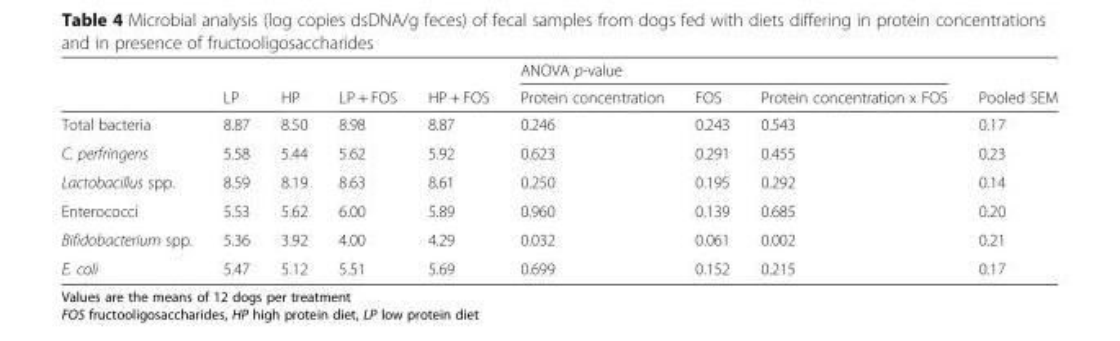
<table><thead><tr><td rowspan="2"></td><td rowspan="2">LP</td><td rowspan="2">HP</td><td rowspan="2">LP + FOS</td><td rowspan="2">HP + FOS</td><td colspan="3">ANOVA p-value</td><td rowspan="2">Pooled SEM</td></tr><tr><td>Protein concentration</td><td>FOS</td><td>Protein concentration x FOS</td></tr></thead><tbody><tr><td>Total bacteria</td><td>8.87</td><td>8.50</td><td>8.98</td><td>8.87</td><td>0.246</td><td>0.243</td><td>0.543</td><td>0.17</td></tr><tr><td>C. perfringens</td><td>5.58</td><td>5.44</td><td>5.62</td><td>5.92</td><td>0.623</td><td>0.291</td><td>0.455</td><td>0.23</td></tr><tr><td>Lactobacillus spp.</td><td>8.59</td><td>8.19</td><td>8.63</td><td>8.61</td><td>0.250</td><td>0.195</td><td>0.292</td><td>0.14</td></tr><tr><td>Enterococci</td><td>5.53</td><td>5.62</td><td>6.00</td><td>5.89</td><td>0.960</td><td>0.139</td><td>0.685</td><td>0.20</td></tr><tr><td>Bifidobacterium spp.</td><td>5.36</td><td>3.92</td><td>4.00</td><td>4.29</td><td>0.032</td><td>0.061</td><td>0.002</td><td>0.21</td></tr><tr><td>E. coli</td><td>5.47</td><td>5.12</td><td>5.51</td><td>5.69</td><td>0.699</td><td>0.152</td><td>0.215</td><td>0.17</td></tr></tbody></table>